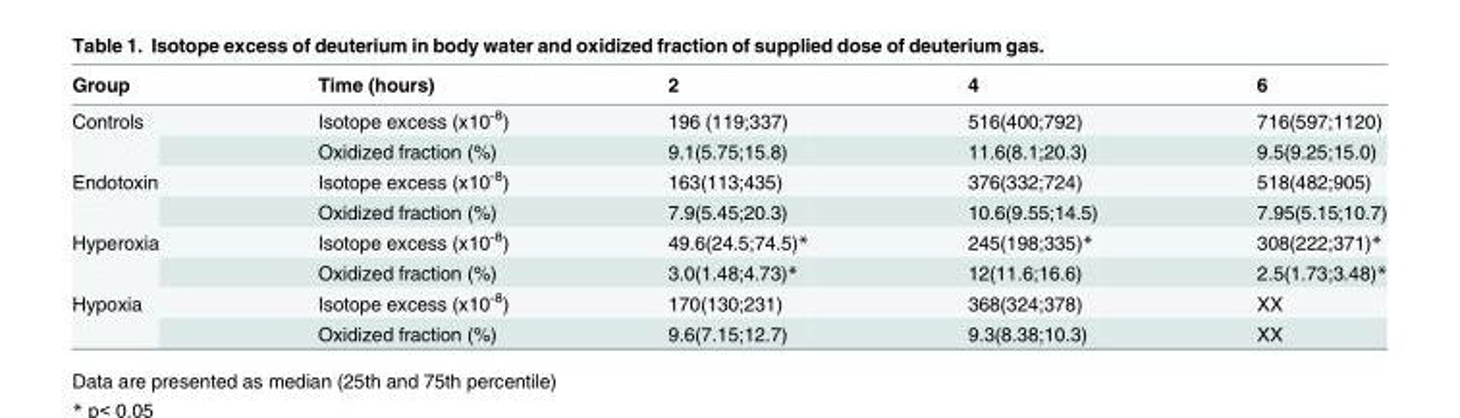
<table><thead><tr><td>Group</td><td>Time (hours)</td><td>2</td><td>4</td><td>6</td></tr></thead><tbody><tr><td rowspan="2">Controls</td><td>Isotope excess (x10<sup>-8</sup>)</td><td>196 (119;337)</td><td>516(400;792)</td><td>716(597;1120)</td></tr><tr><td>Oxidized fraction (%)</td><td>9.1(5.75;15.8)</td><td>11.6(8.1;20.3)</td><td>9.5(9.25;15.0)</td></tr><tr><td rowspan="2">Endotoxin</td><td>Isotope excess (x10<sup>-8</sup>)</td><td>163(113;435)</td><td>376(332;724)</td><td>518(482;905)</td></tr><tr><td>Oxidized fraction (%)</td><td>7.9(5.45;20.3)</td><td>10.6(9.55;14.5)</td><td>7.95(5.15;10.7)</td></tr><tr><td rowspan="2">Hyperoxia</td><td>Isotope excess (x10<sup>-8</sup>)</td><td>49.6(24.5;74.5)*</td><td>245(198;335)*</td><td>308(222;371)*</td></tr><tr><td>Oxidized fraction (%)</td><td>3.0(1.48;4.73)*</td><td>12(11.6;16.6)</td><td>2.5(1.73;3.48)*</td></tr><tr><td rowspan="2">Hypoxia</td><td>Isotope excess (x10<sup>-8</sup>)</td><td>170(130;231)</td><td>368(324;378)</td><td>XX</td></tr><tr><td>Oxidized fraction (%)</td><td>9.6(7.15;12.7)</td><td>9.3(8.38;10.3)</td><td>XX</td></tr></tbody></table>